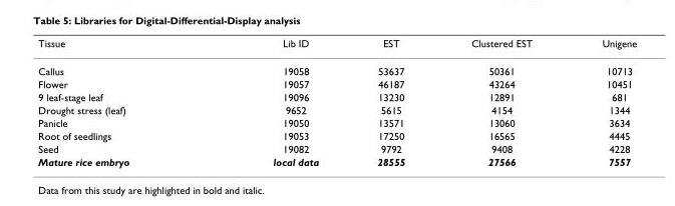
<table><thead><tr><td>Tissue</td><td>Lib ID</td><td>EST</td><td>Clustered EST</td><td>Unigene</td></tr></thead><tbody><tr><td>Callus</td><td>19058</td><td>53637</td><td>50361</td><td>10713</td></tr><tr><td>Flower</td><td>19057</td><td>46187</td><td>43264</td><td>10451</td></tr><tr><td>9 leaf-stage leaf</td><td>19096</td><td>13230</td><td>12891</td><td>681</td></tr><tr><td>Drought stress (leaf)</td><td>9652</td><td>5615</td><td>4154</td><td>1344</td></tr><tr><td>Panicle</td><td>19050</td><td>13571</td><td>13060</td><td>3634</td></tr><tr><td>Root of seedlings</td><td>19053</td><td>17250</td><td>16565</td><td>4445</td></tr><tr><td>Seed</td><td>19082</td><td>9792</td><td>9408</td><td>4228</td></tr><tr><td>Mature rice embryo</td><td>local data</td><td>28555</td><td>27566</td><td>7557</td></tr></tbody></table>